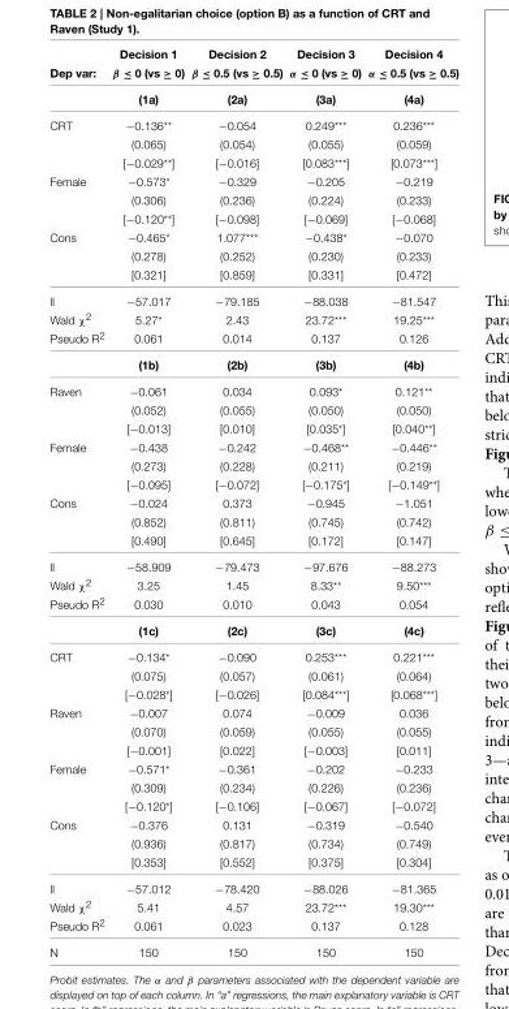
<table><thead><tr><td rowspan="3">Dep var:</td><td rowspan="3">Decision 1 β ≤ 0 (vs ≥ 0) (1a)</td><td rowspan="3">Decision 2 β ≤ 0.5 (vs ≥ 0.5) (2a)</td><td rowspan="3">Decision 3 α ≤ 0 (vs ≥ 0) (3a)</td><td rowspan="3">Decision 4 α ≤ 0.5 (vs ≥ 0.5) (4a)</td></tr><tr></tr><tr></tr></thead><tbody><tr><td rowspan="3">CRT</td><td>−0.136**</td><td>−0.054</td><td>0.249***</td><td>0.236***</td></tr><tr><td>(0.065)</td><td>(0.054)</td><td>(0.055)</td><td>(0.059)</td></tr><tr><td>[−0.029**]</td><td>[−0.016]</td><td>[0.083***]</td><td>[0.073***]</td></tr><tr><td rowspan="3">Female</td><td>−0.573*</td><td>−0.329</td><td>−0.205</td><td>−0.219</td></tr><tr><td>(0.306)</td><td>(0.236)</td><td>(0.224)</td><td>(0.233)</td></tr><tr><td>[−0.120**]</td><td>[−0.098]</td><td>[−0.069]</td><td>[−0.068]</td></tr><tr><td rowspan="3">Cons</td><td>−0.465*</td><td>1.077***</td><td>−0.438*</td><td>−0.070</td></tr><tr><td>(0.278)</td><td>(0.252)</td><td>(0.230)</td><td>(0.233)</td></tr><tr><td>[0.321]</td><td>[0.859]</td><td>[0.331]</td><td>[0.472]</td></tr><tr><td>ll</td><td>−57.017</td><td>−79.185</td><td>−88.038</td><td>−81.547</td></tr><tr><td>Wald χ<sup>2</sup></td><td>5.27*</td><td>2.43</td><td>23.72***</td><td>19.25***</td></tr><tr><td rowspan="2">Pseudo R<sup>2</sup></td><td>0.061</td><td>0.014</td><td>0.137</td><td>0.126</td></tr><tr><td>(1b)</td><td>(2b)</td><td>(3b)</td><td>(4b)</td></tr><tr><td rowspan="3">Raven</td><td>−0.061</td><td>0.034</td><td>0.093*</td><td>0.121**</td></tr><tr><td>(0.052)</td><td>(0.055)</td><td>(0.050)</td><td>(0.050)</td></tr><tr><td>[−0.013]</td><td>[0.010]</td><td>[0.035*]</td><td>[0.040**]</td></tr><tr><td rowspan="3">Female</td><td>−0.438</td><td>−0.242</td><td>−0.468**</td><td>−0.446**</td></tr><tr><td>(0.273)</td><td>(0.228)</td><td>(0.211)</td><td>(0.219)</td></tr><tr><td>[−0.095]</td><td>[−0.072]</td><td>[−0.175*]</td><td>[−0.149**]</td></tr><tr><td rowspan="3">Cons</td><td>−0.024</td><td>0.373</td><td>−0.945</td><td>−1.051</td></tr><tr><td>(0.852)</td><td>(0.811)</td><td>(0.745)</td><td>(0.742)</td></tr><tr><td>[0.490]</td><td>[0.645]</td><td>[0.172]</td><td>[0.147]</td></tr><tr><td>ll</td><td>−58.909</td><td>−79.473</td><td>−97.676</td><td>−88.273</td></tr><tr><td>Wald χ<sup>2</sup></td><td>3.25</td><td>1.45</td><td>8.33**</td><td>9.50***</td></tr><tr><td rowspan="2">Pseudo R<sup>2</sup></td><td>0.030</td><td>0.010</td><td>0.043</td><td>0.054</td></tr><tr><td>(1c)</td><td>(2c)</td><td>(3c)</td><td>(4c)</td></tr><tr><td rowspan="3">CRT</td><td>−0.134*</td><td>−0.090</td><td>0.253***</td><td>0.221***</td></tr><tr><td>(0.075)</td><td>(0.057)</td><td>(0.061)</td><td>(0.064)</td></tr><tr><td>[−0.028*]</td><td>[−0.026]</td><td>[0.084***]</td><td>[0.068***]</td></tr><tr><td rowspan="3">Raven</td><td>−0.007</td><td>0.074</td><td>−0.009</td><td>0.036</td></tr><tr><td>(0.070)</td><td>(0.059)</td><td>(0.055)</td><td>(0.055)</td></tr><tr><td>[−0.001]</td><td>[0.022]</td><td>[−0.003]</td><td>[0.011]</td></tr><tr><td rowspan="3">Female</td><td>−0.571*</td><td>−0.361</td><td>−0.202</td><td>−0.233</td></tr><tr><td>(0.309)</td><td>(0.234)</td><td>(0.226)</td><td>(0.236)</td></tr><tr><td>[−0.120*]</td><td>[−0.106]</td><td>[−0.067]</td><td>[−0.072]</td></tr><tr><td rowspan="3">Cons</td><td>−0.376</td><td>0.131</td><td>−0.319</td><td>−0.540</td></tr><tr><td>(0.936)</td><td>(0.817)</td><td>(0.734)</td><td>(0.749)</td></tr><tr><td>[0.353]</td><td>[0.552]</td><td>[0.375]</td><td>[0.304]</td></tr><tr><td>ll</td><td>−57.012</td><td>−78.420</td><td>−88.026</td><td>−81.365</td></tr><tr><td>Wald χ<sup>2</sup></td><td>5.41</td><td>4.57</td><td>23.72***</td><td>19.30***</td></tr><tr><td>Pseudo R<sup>2</sup></td><td>0.061</td><td>0.023</td><td>0.137</td><td>0.128</td></tr><tr><td>N</td><td>150</td><td>150</td><td>150</td><td>150</td></tr></tbody></table>